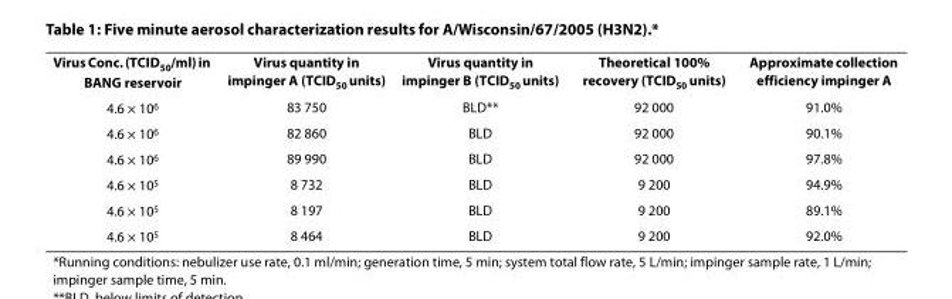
<table><tbody><tr><td>Virus Conc. (TCID<sub>50</sub>/ml) in BANG reservoir</td><td>Virus quantity in impinger A (TCID<sub>50</sub> units)</td><td>Virus quantity in impinger B (TCID<sub>50</sub> units)</td><td>Theoretical 100% recovery (TCID<sub>50</sub> units)</td><td>Approximate collection efficiency impinger A</td></tr><tr><td>4.6 × 10<sup>6</sup></td><td>83 750</td><td>BLD**</td><td>92 000</td><td>91.0%</td></tr><tr><td>4.6 × 10<sup>6</sup></td><td>82 860</td><td>BLD</td><td>92 000</td><td>90.1%</td></tr><tr><td>4.6 × 10<sup>6</sup></td><td>89 990</td><td>BLD</td><td>92 000</td><td>97.8%</td></tr><tr><td>4.6 × 10<sup>5</sup></td><td>8 732</td><td>BLD</td><td>9 200</td><td>94.9%</td></tr><tr><td>4.6 × 10<sup>5</sup></td><td>8 197</td><td>BLD</td><td>9 200</td><td>89.1%</td></tr><tr><td>4.6 × 10<sup>5</sup></td><td>8 464</td><td>BLD</td><td>9 200</td><td>92.0%</td></tr></tbody></table>